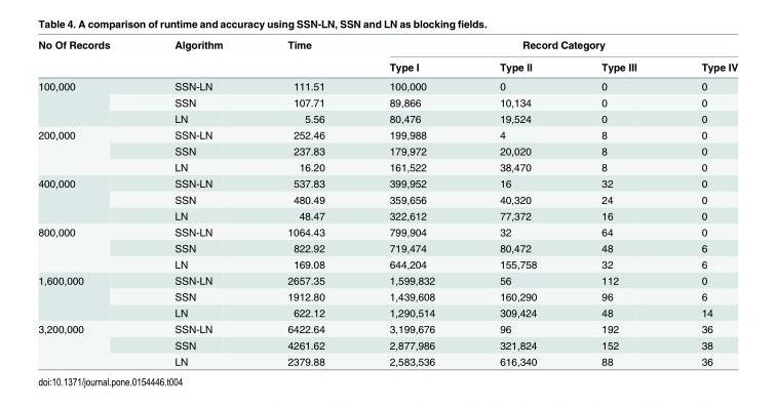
<table><thead><tr><td rowspan="2">No Of Records</td><td rowspan="2">Algorithm</td><td rowspan="2">Time</td><td colspan="4">Record Category</td></tr><tr><td>Type I</td><td>Type II</td><td>Type III</td><td>Type IV</td></tr></thead><tbody><tr><td rowspan="3">100,000</td><td>SSN-LN</td><td>111.51</td><td>100,000</td><td>0</td><td>0</td><td>0</td></tr><tr><td>SSN</td><td>107.71</td><td>89,866</td><td>10,134</td><td>0</td><td>0</td></tr><tr><td>LN</td><td>5.56</td><td>80,476</td><td>19,524</td><td>0</td><td>0</td></tr><tr><td rowspan="3">200,000</td><td>SSN-LN</td><td>252.46</td><td>199,988</td><td>4</td><td>8</td><td>0</td></tr><tr><td>SSN</td><td>237.83</td><td>179,972</td><td>20,020</td><td>8</td><td>0</td></tr><tr><td>LN</td><td>16.20</td><td>161,522</td><td>38,470</td><td>8</td><td>0</td></tr><tr><td rowspan="3">400,000</td><td>SSN-LN</td><td>537.83</td><td>399,952</td><td>16</td><td>32</td><td>0</td></tr><tr><td>SSN</td><td>480.49</td><td>359,656</td><td>40,320</td><td>24</td><td>0</td></tr><tr><td>LN</td><td>48.47</td><td>322,612</td><td>77,372</td><td>16</td><td>0</td></tr><tr><td rowspan="3">800,000</td><td>SSN-LN</td><td>1064.43</td><td>799,904</td><td>32</td><td>64</td><td>0</td></tr><tr><td>SSN</td><td>822.92</td><td>719,474</td><td>80,472</td><td>48</td><td>6</td></tr><tr><td>LN</td><td>169.08</td><td>644,204</td><td>155,758</td><td>32</td><td>6</td></tr><tr><td rowspan="3">1,600,000</td><td>SSN-LN</td><td>2657.35</td><td>1,599,832</td><td>56</td><td>112</td><td>0</td></tr><tr><td>SSN</td><td>1912.80</td><td>1,439,608</td><td>160,290</td><td>96</td><td>6</td></tr><tr><td>LN</td><td>622.12</td><td>1,290,514</td><td>309,424</td><td>48</td><td>14</td></tr><tr><td rowspan="3">3,200,000</td><td>SSN-LN</td><td>6422.64</td><td>3,199,676</td><td>96</td><td>192</td><td>36</td></tr><tr><td>SSN</td><td>4261.62</td><td>2,877,986</td><td>321,824</td><td>152</td><td>38</td></tr><tr><td>LN</td><td>2379.88</td><td>2,583,536</td><td>616,340</td><td>88</td><td>36</td></tr></tbody></table>